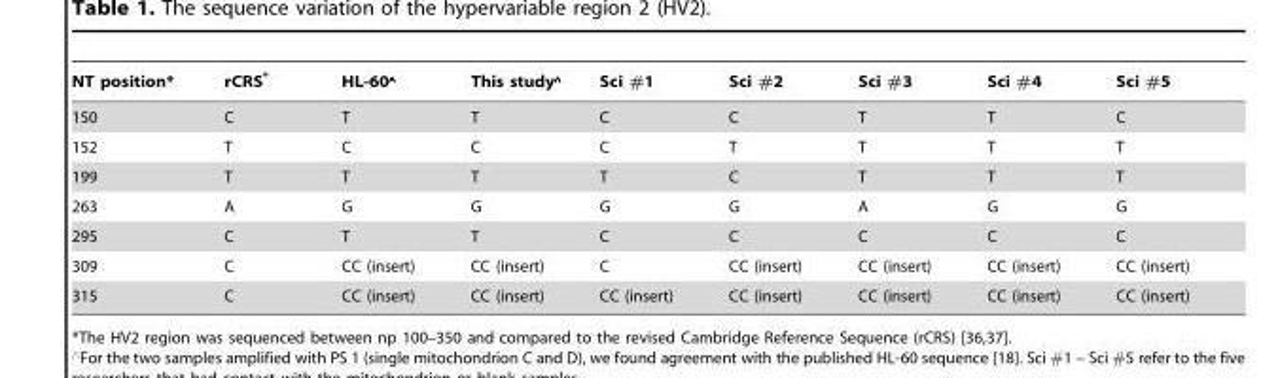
<table><thead><tr><td>NT position*</td><td>rCRS*</td><td>HL-60‘</td><td>This study‘</td><td>Sci #1</td><td>Sci #2</td><td>Sci #3</td><td>Sci #4</td><td>Sci #5</td></tr></thead><tbody><tr><td>150</td><td>C</td><td>T</td><td>T</td><td>C</td><td>C</td><td>T</td><td>T</td><td>C</td></tr><tr><td>152</td><td>T</td><td>C</td><td>C</td><td>C</td><td>T</td><td>T</td><td>T</td><td>T</td></tr><tr><td>199</td><td>T</td><td>T</td><td>T</td><td>T</td><td>C</td><td>T</td><td>T</td><td>T</td></tr><tr><td>263</td><td>A</td><td>G</td><td>G</td><td>G</td><td>G</td><td>A</td><td>G</td><td>G</td></tr><tr><td>295</td><td>C</td><td>T</td><td>T</td><td>C</td><td>C</td><td>C</td><td>C</td><td>C</td></tr><tr><td>309</td><td>C</td><td>CC (insert)</td><td>CC (insert)</td><td>C</td><td>CC (insert)</td><td>CC (insert)</td><td>CC (insert)</td><td>CC (insert)</td></tr><tr><td>315</td><td>C</td><td>CC (insert)</td><td>CC (insert)</td><td>CC (insert)</td><td>CC (insert)</td><td>CC (insert)</td><td>CC (insert)</td><td>CC (insert)</td></tr></tbody></table>